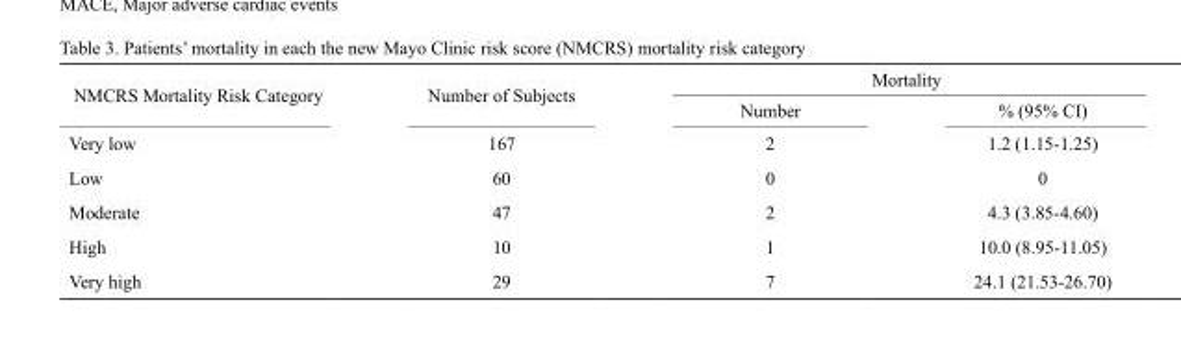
<table><thead><tr><td rowspan="2">NMCRS Mortality Risk Category</td><td rowspan="2">Number of Subjects</td><td colspan="2">Mortality</td></tr><tr><td>Number</td><td>% (95% CI)</td></tr></thead><tbody><tr><td>Very low</td><td>167</td><td>2</td><td>1.2 (1.15-1.25)</td></tr><tr><td>Low</td><td>60</td><td>0</td><td>0</td></tr><tr><td>Moderate</td><td>47</td><td>2</td><td>4.3 (3.85-4.60)</td></tr><tr><td>High</td><td>10</td><td>1</td><td>10.0 (8.95-11.05)</td></tr><tr><td>Very high</td><td>29</td><td>7</td><td>24.1 (21.53-26.70)</td></tr></tbody></table>